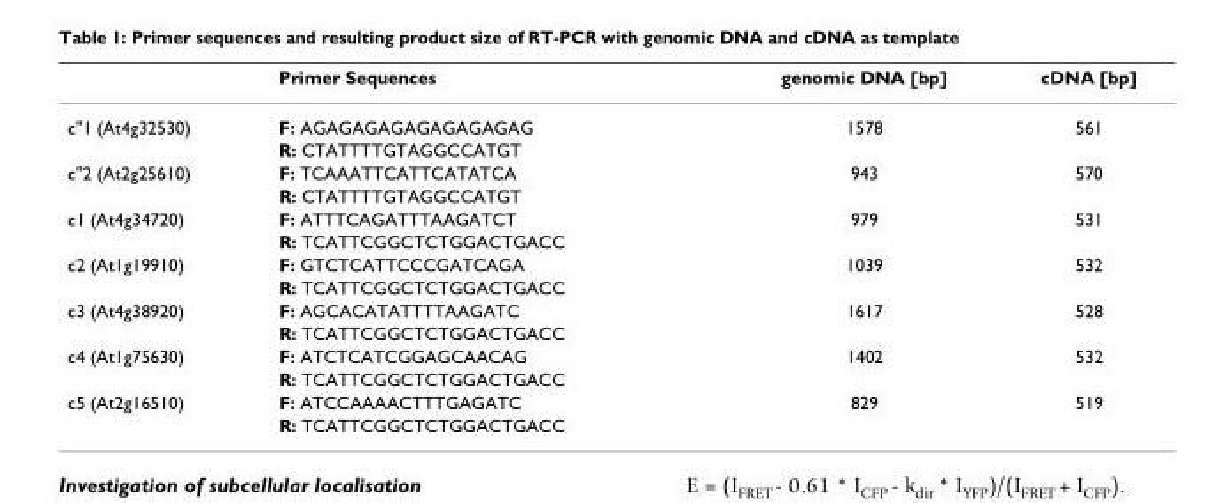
<table><thead><tr><td></td><td>Primer Sequences</td><td>genomic DNA [bp]</td><td>cDNA [bp]</td></tr></thead><tbody><tr><td rowspan="2">c&quot;1 (At4g32530)</td><td>F: AGAGAGAGAGAGAGAGAG</td><td>1578</td><td>561</td></tr><tr><td>R: CTATTTTGTAGGCCATGT</td><td></td><td></td></tr><tr><td rowspan="2">c&quot;2 (At2g25610)</td><td>F: TCAAATTCATTCATATCA</td><td>943</td><td>570</td></tr><tr><td>R: CTATTTTGTAGGCCATGT</td><td></td><td></td></tr><tr><td rowspan="2">c1 (At4g34720)</td><td>F: ATTTCAGATTTAAGATCT</td><td>979</td><td>531</td></tr><tr><td>R: TCATTCGGCTCTGGACTGACC</td><td></td><td></td></tr><tr><td rowspan="2">c2 (At1g19910)</td><td>F: GTCTCATTCCCGATCAGA</td><td>1039</td><td>532</td></tr><tr><td>R: TCATTCGGCTCTGGACTGACC</td><td></td><td></td></tr><tr><td rowspan="2">c3 (At4g38920)</td><td>F: AGCACATATTTTAAGATC</td><td>1617</td><td>528</td></tr><tr><td>R: TCATTCGGCTCTGGACTGACC</td><td></td><td></td></tr><tr><td rowspan="2">c4 (At1g75630)</td><td>F: ATCTCATCGGAGCAACAG</td><td>1402</td><td>532</td></tr><tr><td>R: TCATTCGGCTCTGGACTGACC</td><td></td><td></td></tr><tr><td rowspan="2">c5 (At2g16510)</td><td>F: ATCCAAAACTTTGAGATC</td><td>829</td><td>519</td></tr><tr><td>R: TCATTCGGCTCTGGACTGACC</td><td></td><td></td></tr></tbody></table>